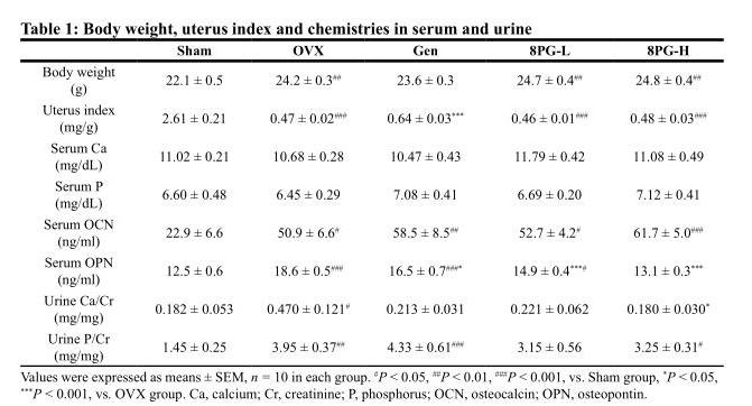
<table><thead><tr><td></td><td>Sham</td><td>OVX</td><td>Gen</td><td>8PG-L</td><td>8PG-H</td></tr></thead><tbody><tr><td>Body weight (g)</td><td>22.1 ± 0.5</td><td>24.2 ± 0.3<sup>##</sup></td><td>23.6 ± 0.3</td><td>24.7 ± 0.4<sup>##</sup></td><td>24.8 ± 0.4<sup>##</sup></td></tr><tr><td>Uterus index (mg/g)</td><td>2.61 ± 0.21</td><td>0.47 ± 0.02<sup>###</sup></td><td>0.64 ± 0.03***</td><td>0.46 ± 0.01<sup>###</sup></td><td>0.48 ± 0.03<sup>###</sup></td></tr><tr><td>Serum Ca (mg/dL)</td><td>11.02 ± 0.21</td><td>10.68 ± 0.28</td><td>10.47 ± 0.43</td><td>11.79 ± 0.42</td><td>11.08 ± 0.49</td></tr><tr><td>Serum P (mg/dL)</td><td>6.60 ± 0.48</td><td>6.45 ± 0.29</td><td>7.08 ± 0.41</td><td>6.69 ± 0.20</td><td>7.12 ± 0.41</td></tr><tr><td>Serum OCN (ng/ml)</td><td>22.9 ± 6.6</td><td>50.9 ± 6.6<sup>#</sup></td><td>58.5 ± 8.5<sup>##</sup></td><td>52.7 ± 4.2<sup>#</sup></td><td>61.7 ± 5.0<sup>###</sup></td></tr><tr><td>Serum OPN (ng/ml)</td><td>12.5 ± 0.6</td><td>18.6 ± 0.5<sup>###</sup></td><td>16.5 ± 0.7<sup>###*</sup></td><td>14.9 ± 0.4<sup>***#</sup></td><td>13.1 ± 0.3***</td></tr><tr><td>Urine Ca/Cr (mg/mg)</td><td>0.182 ± 0.053</td><td>0.470 ± 0.121<sup>#</sup></td><td>0.213 ± 0.031</td><td>0.221 ± 0.062</td><td>0.180 ± 0.030*</td></tr><tr><td>Urine P/Cr (mg/mg)</td><td>1.45 ± 0.25</td><td>3.95 ± 0.37<sup>##</sup></td><td>4.33 ± 0.61<sup>###</sup></td><td>3.15 ± 0.56</td><td>3.25 ± 0.31<sup>#</sup></td></tr></tbody></table>